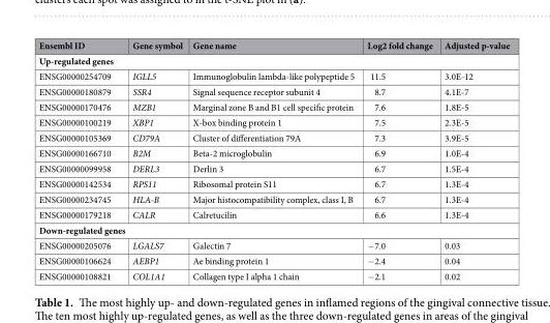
<table><thead><tr><td>Ensembl ID</td><td>Gene symbol</td><td>Gene name</td><td>Log2 fold change</td><td>Adjusted p-value</td></tr></thead><tbody><tr><td colspan="5">Up-regulated genes</td></tr><tr><td>ENSG00000254709</td><td>IGLL5</td><td>Immunoglobulin lambda-like polypeptide 5</td><td>11.5</td><td>3.0E-12</td></tr><tr><td>ENSG00000180879</td><td>SSR4</td><td>Signal sequence receptor subunit 4</td><td>8.7</td><td>4.1E-7</td></tr><tr><td>ENSG00000170476</td><td>MZB1</td><td>Marginal zone B and B1 cell specific protein</td><td>7.6</td><td>1.8E-5</td></tr><tr><td>ENSG00000100219</td><td>XBP1</td><td>X-box binding protein 1</td><td>7.5</td><td>2.3E-5</td></tr><tr><td>ENSG00000105369</td><td>CD79A</td><td>Cluster of differentiation 79A</td><td>7.3</td><td>3.9E-5</td></tr><tr><td>ENSG00000166710</td><td>B2M</td><td>Beta-2 microglobulin</td><td>6.9</td><td>1.0E-4</td></tr><tr><td>ENSG00000099958</td><td>DERL3</td><td>Derlin 3</td><td>6.7</td><td>1.5E-4</td></tr><tr><td>ENSG00000142534</td><td>RPS11</td><td>Ribosomal protein S11</td><td>6.7</td><td>1.3E-4</td></tr><tr><td>ENSG00000234745</td><td>HLA-B</td><td>Major histocompatibility complex, class I, B</td><td>6.7</td><td>1.3E-4</td></tr><tr><td>ENSG00000179218</td><td>CALR</td><td>Calretucilin</td><td>6.6</td><td>1.3E-4</td></tr><tr><td colspan="5">Down-regulated genes</td></tr><tr><td>ENSG00000205076</td><td>LGALS7</td><td>Galectin 7</td><td>−7.0</td><td>0.03</td></tr><tr><td>ENSG00000106624</td><td>AEBP1</td><td>Ae binding protein 1</td><td>−2.4</td><td>0.04</td></tr><tr><td>ENSG00000108821</td><td>COL1A1</td><td>Collagen type I alpha 1 chain</td><td>−2.1</td><td>0.02</td></tr></tbody></table>